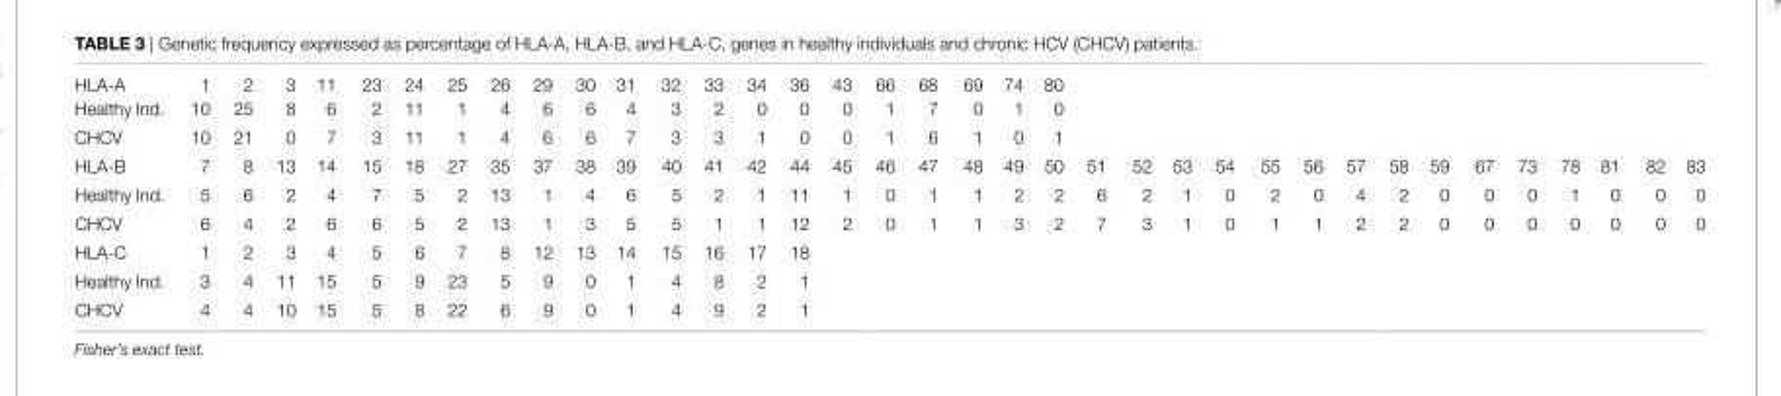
<table><tbody><tr><td>HLA-A</td><td>1</td><td>2</td><td>3</td><td>11</td><td>23</td><td>24</td><td>25</td><td>26</td><td>29</td><td>30</td><td>31</td><td>32</td><td>33</td><td>34</td><td>36</td><td>43</td><td>66</td><td>68</td><td>69</td><td>74</td><td>80</td><td></td><td></td><td></td><td></td><td></td><td></td><td></td><td></td><td></td><td></td><td></td><td></td><td></td><td></td><td></td></tr><tr><td>Healthy Ind.</td><td>10</td><td>25</td><td>8</td><td>6</td><td>2</td><td>11</td><td>1</td><td>4</td><td>6</td><td>6</td><td>4</td><td>3</td><td>2</td><td>0</td><td>0</td><td>0</td><td>1</td><td>7</td><td>0</td><td>1</td><td>0</td><td></td><td></td><td></td><td></td><td></td><td></td><td></td><td></td><td></td><td></td><td></td><td></td><td></td><td></td><td></td></tr><tr><td>CHCV</td><td>10</td><td>21</td><td>0</td><td>7</td><td>3</td><td>11</td><td>1</td><td>4</td><td>6</td><td>6</td><td>7</td><td>3</td><td>3</td><td>1</td><td>0</td><td>0</td><td>1</td><td>6</td><td>1</td><td>0</td><td>1</td><td></td><td></td><td></td><td></td><td></td><td></td><td></td><td></td><td></td><td></td><td></td><td></td><td></td><td></td><td></td></tr><tr><td>HLA-B</td><td>7</td><td>8</td><td>13</td><td>14</td><td>15</td><td>18</td><td>27</td><td>35</td><td>37</td><td>38</td><td>39</td><td>40</td><td>41</td><td>42</td><td>44</td><td>45</td><td>46</td><td>47</td><td>48</td><td>49</td><td>50</td><td>51</td><td>52</td><td>53</td><td>54</td><td>55</td><td>56</td><td>57</td><td>58</td><td>59</td><td>67</td><td>73</td><td>78</td><td>81</td><td>82</td><td>83</td></tr><tr><td>Healthy Ind.</td><td>5</td><td>6</td><td>2</td><td>4</td><td>7</td><td>5</td><td>2</td><td>13</td><td>1</td><td>4</td><td>6</td><td>5</td><td>2</td><td>1</td><td>11</td><td>1</td><td>0</td><td>1</td><td>1</td><td>2</td><td>2</td><td>6</td><td>2</td><td>1</td><td>0</td><td>2</td><td>0</td><td>4</td><td>2</td><td>0</td><td>0</td><td>0</td><td>1</td><td>0</td><td>0</td><td>0</td></tr><tr><td>CHCV</td><td>6</td><td>4</td><td>2</td><td>6</td><td>6</td><td>5</td><td>2</td><td>13</td><td>1</td><td>3</td><td>5</td><td>5</td><td>1</td><td>1</td><td>12</td><td>2</td><td>0</td><td>1</td><td>1</td><td>3</td><td>2</td><td>7</td><td>3</td><td>1</td><td>0</td><td>1</td><td>1</td><td>2</td><td>2</td><td>0</td><td>0</td><td>0</td><td>0</td><td>0</td><td>0</td><td>0</td></tr><tr><td>HLA-C</td><td>1</td><td>2</td><td>3</td><td>4</td><td>5</td><td>6</td><td>7</td><td>8</td><td>12</td><td>13</td><td>14</td><td>15</td><td>16</td><td>17</td><td>18</td><td></td><td></td><td></td><td></td><td></td><td></td><td></td><td></td><td></td><td></td><td></td><td></td><td></td><td></td><td></td><td></td><td></td><td></td><td></td><td></td><td></td></tr><tr><td>Healthy Ind.</td><td>3</td><td>4</td><td>11</td><td>15</td><td>5</td><td>9</td><td>23</td><td>5</td><td>9</td><td>0</td><td>1</td><td>4</td><td>8</td><td>2</td><td>1</td><td></td><td></td><td></td><td></td><td></td><td></td><td></td><td></td><td></td><td></td><td></td><td></td><td></td><td></td><td></td><td></td><td></td><td></td><td></td><td></td><td></td></tr><tr><td>CHCV</td><td>4</td><td>4</td><td>10</td><td>15</td><td>5</td><td>8</td><td>22</td><td>6</td><td>9</td><td>0</td><td>1</td><td>4</td><td>9</td><td>2</td><td>1</td><td></td><td></td><td></td><td></td><td></td><td></td><td></td><td></td><td></td><td></td><td></td><td></td><td></td><td></td><td></td><td></td><td></td><td></td><td></td><td></td><td></td></tr></tbody></table>